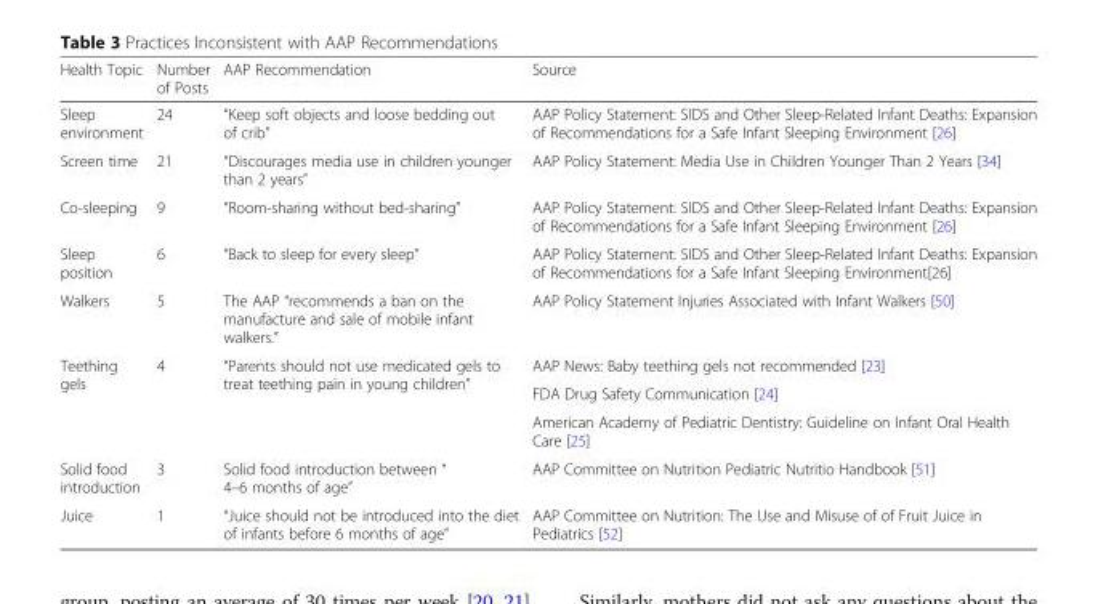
<table><thead><tr><td>Health Topic</td><td>Number of Posts</td><td>AAP Recommendation</td><td>Source</td></tr></thead><tbody><tr><td>Sleep environment</td><td>24</td><td>“Keep soft objects and loose bedding out of crib”</td><td>AAP Policy Statement: SIDS and Other Sleep-Related Infant Deaths: Expansion of Recommendations for a Safe Infant Sleeping Environment [26]</td></tr><tr><td>Screen time</td><td>21</td><td>“Discourages media use in children younger than 2 years”</td><td>AAP Policy Statement: Media Use in Children Younger Than 2 Years [34]</td></tr><tr><td>Co-sleeping</td><td>9</td><td>“Room-sharing without bed-sharing”</td><td>AAP Policy Statement: SIDS and Other Sleep-Related Infant Deaths: Expansion of Recommendations for a Safe Infant Sleeping Environment [26]</td></tr><tr><td>Sleep position</td><td>6</td><td>“Back to sleep for every sleep”</td><td>AAP Policy Statement: SIDS and Other Sleep-Related Infant Deaths: Expansion of Recommendations for a Safe Infant Sleeping Environment[26]</td></tr><tr><td>Walkers</td><td>5</td><td>The AAP “recommends a ban on the manufacture and sale of mobile infant walkers.”</td><td>AAP Policy Statement Injuries Associated with Infant Walkers [50]</td></tr><tr><td rowspan="3">Teething gels</td><td rowspan="3">4</td><td rowspan="3">“Parents should not use medicated gels to treat teething pain in young children”</td><td>AAP News: Baby teething gels not recommended [23]</td></tr><tr><td>FDA Drug Safety Communication [24]</td></tr><tr><td>American Academy of Pediatric Dentistry: Guideline on Infant Oral Health Care [25]</td></tr><tr><td>Solid food introduction</td><td>3</td><td>Solid food introduction between “ 4–6 months of age”</td><td>AAP Committee on Nutrition Pediatric Nutritio Handbook [51]</td></tr><tr><td>Juice</td><td>1</td><td>“Juice should not be introduced into the diet of infants before 6 months of age”</td><td>AAP Committee on Nutrition: The Use and Misuse of of Fruit Juice in Pediatrics [52]</td></tr></tbody></table>